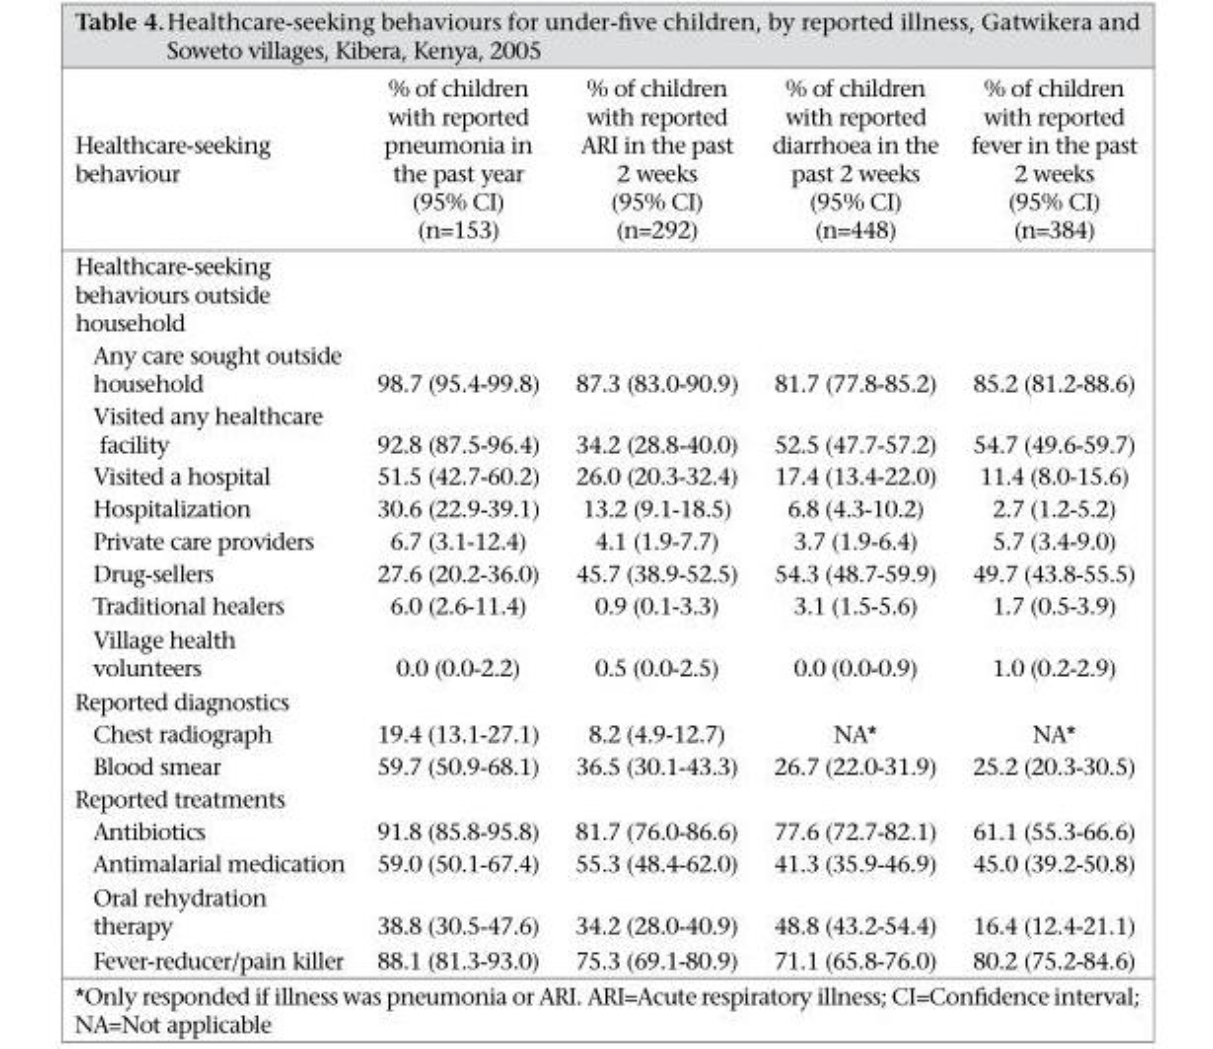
<table><thead><tr><td>Healthcare-seeking behaviour</td><td>% of children with reported pneumonia in the past year (95% CI) (n=153)</td><td>% of children with reported ARI in the past 2 weeks (95% CI) (n=292)</td><td>% of children with reported diarrhoea in the past 2 weeks (95% CI) (n=448)</td><td>% of children with reported fever in the past 2 weeks (95% CI) (n=384)</td></tr></thead><tbody><tr><td colspan="5">Healthcare-seeking behaviours outside household</td></tr><tr><td>Any care sought outside household</td><td>98.7 (95.4-99.8)</td><td>87.3 (83.0-90.9)</td><td>81.7 (77.8-85.2)</td><td>85.2 (81.2-88.6)</td></tr><tr><td>Visited any healthcare facility</td><td>92.8 (87.5-96.4)</td><td>34.2 (28.8-40.0)</td><td>52.5 (47.7-57.2)</td><td>54.7 (49.6-59.7)</td></tr><tr><td>Visited a hospital</td><td>51.5 (42.7-60.2)</td><td>26.0 (20.3-32.4)</td><td>17.4 (13.4-22.0)</td><td>11.4 (8.0-15.6)</td></tr><tr><td>Hospitalization</td><td>30.6 (22.9-39.1)</td><td>13.2 (9.1-18.5)</td><td>6.8 (4.3-10.2)</td><td>2.7 (1.2-5.2)</td></tr><tr><td>Private care providers</td><td>6.7 (3.1-12.4)</td><td>4.1 (1.9-7.7)</td><td>3.7 (1.9-6.4)</td><td>5.7 (3.4-9.0)</td></tr><tr><td>Drug-sellers</td><td>27.6 (20.2-36.0)</td><td>45.7 (38.9-52.5)</td><td>54.3 (48.7-59.9)</td><td>49.7 (43.8-55.5)</td></tr><tr><td>Traditional healers</td><td>6.0 (2.6-11.4)</td><td>0.9 (0.1-3.3)</td><td>3.1 (1.5-5.6)</td><td>1.7 (0.5-3.9)</td></tr><tr><td>Village health volunteers</td><td>0.0 (0.0-2.2)</td><td>0.5 (0.0-2.5)</td><td>0.0 (0.0-0.9)</td><td>1.0 (0.2-2.9)</td></tr><tr><td colspan="5">Reported diagnostics</td></tr><tr><td>Chest radiograph</td><td>19.4 (13.1-27.1)</td><td>8.2 (4.9-12.7)</td><td>NA*</td><td>NA*</td></tr><tr><td>Blood smear</td><td>59.7 (50.9-68.1)</td><td>36.5 (30.1-43.3)</td><td>26.7 (22.0-31.9)</td><td>25.2 (20.3-30.5)</td></tr><tr><td colspan="5">Reported treatments</td></tr><tr><td>Antibiotics</td><td>91.8 (85.8-95.8)</td><td>81.7 (76.0-86.6)</td><td>77.6 (72.7-82.1)</td><td>61.1 (55.3-66.6)</td></tr><tr><td>Antimalarial medication</td><td>59.0 (50.1-67.4)</td><td>55.3 (48.4-62.0)</td><td>41.3 (35.9-46.9)</td><td>45.0 (39.2-50.8)</td></tr><tr><td>Oral rehydration therapy</td><td>38.8 (30.5-47.6)</td><td>34.2 (28.0-40.9)</td><td>48.8 (43.2-54.4)</td><td>16.4 (12.4-21.1)</td></tr><tr><td>Fever-reducer/pain killer</td><td>88.1 (81.3-93.0)</td><td>75.3 (69.1-80.9)</td><td>71.1 (65.8-76.0)</td><td>80.2 (75.2-84.6)</td></tr></tbody></table>